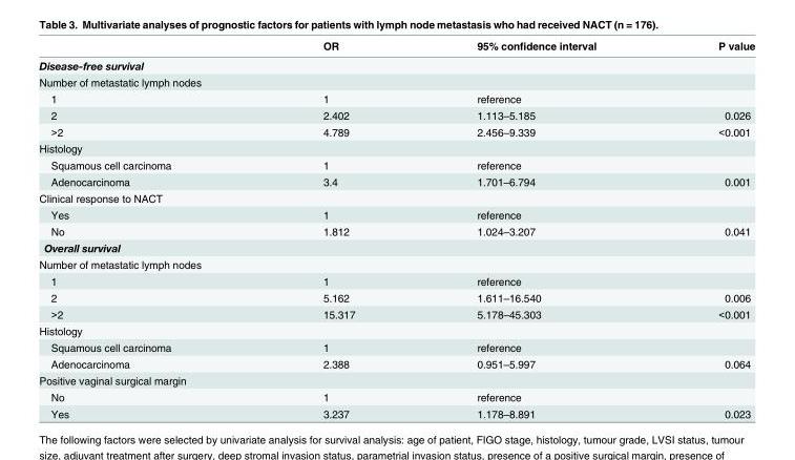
<table><thead><tr><td></td><td>OR</td><td>95% confidence interval</td><td>P value</td></tr></thead><tbody><tr><td colspan="4">Disease-free survival</td></tr><tr><td colspan="4">Number of metastatic lymph nodes</td></tr><tr><td>1</td><td>1</td><td>reference</td><td></td></tr><tr><td>2</td><td>2.402</td><td>1.113–5.185</td><td>0.026</td></tr><tr><td>&gt;2</td><td>4.789</td><td>2.456–9.339</td><td>&lt;0.001</td></tr><tr><td colspan="4">Histology</td></tr><tr><td>Squamous cell carcinoma</td><td>1</td><td>reference</td><td></td></tr><tr><td>Adenocarcinoma</td><td>3.4</td><td>1.701–6.794</td><td>0.001</td></tr><tr><td colspan="4">Clinical response to NACT</td></tr><tr><td>Yes</td><td>1</td><td>reference</td><td></td></tr><tr><td>No</td><td>1.812</td><td>1.024–3.207</td><td>0.041</td></tr><tr><td colspan="4">Overall survival</td></tr><tr><td colspan="4">Number of metastatic lymph nodes</td></tr><tr><td>1</td><td>1</td><td>reference</td><td></td></tr><tr><td>2</td><td>5.162</td><td>1.611–16.540</td><td>0.006</td></tr><tr><td>&gt;2</td><td>15.317</td><td>5.178–45.303</td><td>&lt;0.001</td></tr><tr><td colspan="4">Histology</td></tr><tr><td>Squamous cell carcinoma</td><td>1</td><td>reference</td><td></td></tr><tr><td>Adenocarcinoma</td><td>2.388</td><td>0.951–5.997</td><td>0.064</td></tr><tr><td colspan="4">Positive vaginal surgical margin</td></tr><tr><td>No</td><td>1</td><td>reference</td><td></td></tr><tr><td>Yes</td><td>3.237</td><td>1.178–8.891</td><td>0.023</td></tr></tbody></table>